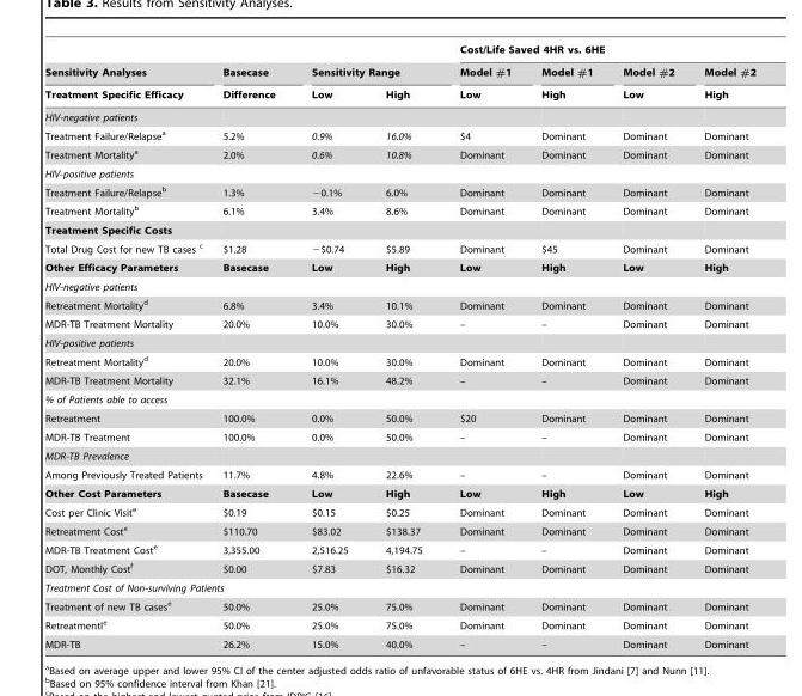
<table><thead><tr><td rowspan="3">Sensitivity Analyses Treatment Specific Efficacy</td><td rowspan="3">Basecase Difference</td><td></td><td></td><td colspan="4">Cost/Life Saved 4HR vs. 6HE</td></tr><tr><td colspan="2">Sensitivity Range</td><td rowspan="2">Model #1 Low</td><td rowspan="2">Model #1 High</td><td rowspan="2">Model #2 Low</td><td rowspan="2">Model #2 High</td></tr><tr><td>Low</td><td>High</td></tr></thead><tbody><tr><td colspan="8">HIV-negative patients</td></tr><tr><td>Treatment Failure/Relapse<sup>a</sup></td><td>5.2%</td><td>0.9%</td><td>16.0%</td><td>$4</td><td>Dominant</td><td>Dominant</td><td>Dominant</td></tr><tr><td>Treatment Mortality<sup>a</sup></td><td>2.0%</td><td>0.6%</td><td>10.8%</td><td>Dominant</td><td>Dominant</td><td>Dominant</td><td>Dominant</td></tr><tr><td colspan="8">HIV-positive patients</td></tr><tr><td>Treatment Failure/Relapse<sup>b</sup></td><td>1.3%</td><td>−0.1%</td><td>6.0%</td><td>Dominant</td><td>Dominant</td><td>Dominant</td><td>Dominant</td></tr><tr><td>Treatment Mortality<sup>b</sup></td><td>6.1%</td><td>3.4%</td><td>8.6%</td><td>Dominant</td><td>Dominant</td><td>Dominant</td><td>Dominant</td></tr><tr><td colspan="8">Treatment Specific Costs</td></tr><tr><td>Total Drug Cost for new TB cases c</td><td>$1.28</td><td>−$0.74</td><td>$5.89</td><td>Dominant</td><td>$45</td><td>Dominant</td><td>Dominant</td></tr><tr><td>Other Efficacy Parameters</td><td>Basecase</td><td>Low</td><td>High</td><td>Low</td><td>High</td><td>Low</td><td>High</td></tr><tr><td colspan="8">HIV-negative patients</td></tr><tr><td>Retreatment Mortality<sup>d</sup></td><td>6.8%</td><td>3.4%</td><td>10.1%</td><td>Dominant</td><td>Dominant</td><td>Dominant</td><td>Dominant</td></tr><tr><td>MDR-TB Treatment Mortality</td><td>20.0%</td><td>10.0%</td><td>30.0%</td><td>–</td><td>–</td><td>Dominant</td><td>Dominant</td></tr><tr><td colspan="8">HIV-positive patients</td></tr><tr><td>Retreatment Mortality<sup>d</sup></td><td>20.0%</td><td>10.0%</td><td>30.0%</td><td>Dominant</td><td>Dominant</td><td>Dominant</td><td>Dominant</td></tr><tr><td>MDR-TB Treatment Mortality</td><td>32.1%</td><td>16.1%</td><td>48.2%</td><td>–</td><td>–</td><td>Dominant</td><td>Dominant</td></tr><tr><td colspan="8">% of Patients able to access</td></tr><tr><td>Retreatment</td><td>100.0%</td><td>0.0%</td><td>50.0%</td><td>$20</td><td>Dominant</td><td>Dominant</td><td>Dominant</td></tr><tr><td>MDR-TB Treatment</td><td>100.0%</td><td>0.0%</td><td>50.0%</td><td>–</td><td>–</td><td>Dominant</td><td>Dominant</td></tr><tr><td colspan="8">MDR-TB Prevalence</td></tr><tr><td>Among Previously Treated Patients</td><td>11.7%</td><td>4.8%</td><td>22.6%</td><td>–</td><td>–</td><td>Dominant</td><td>Dominant</td></tr><tr><td>Other Cost Parameters</td><td>Basecase</td><td>Low</td><td>High</td><td>Low</td><td>High</td><td>Low</td><td>High</td></tr><tr><td>Cost per Clinic Visit<sup>e</sup></td><td>$0.19</td><td>$0.15</td><td>$0.25</td><td>Dominant</td><td>Dominant</td><td>Dominant</td><td>Dominant</td></tr><tr><td>Retreatment Cost<sup>e</sup></td><td>$110.70</td><td>$83.02</td><td>$138.37</td><td>Dominant</td><td>Dominant</td><td>Dominant</td><td>Dominant</td></tr><tr><td>MDR-TB Treatment Cost<sup>e</sup></td><td>3,355.00</td><td>2,516.25</td><td>4,194.75</td><td>–</td><td>–</td><td>Dominant</td><td>Dominant</td></tr><tr><td>DOT, Monthly Cost<sup>f</sup></td><td>$0.00</td><td>$7.83</td><td>$16.32</td><td>Dominant</td><td>Dominant</td><td>Dominant</td><td>Dominant</td></tr><tr><td colspan="8">Treatment Cost of Non-surviving Patients</td></tr><tr><td>Treatment of new TB cases<sup>e</sup></td><td>50.0%</td><td>25.0%</td><td>75.0%</td><td>Dominant</td><td>Dominant</td><td>Dominant</td><td>Dominant</td></tr><tr><td>RetreatmentI<sup>e</sup></td><td>50.0%</td><td>25.0%</td><td>75.0%</td><td>Dominant</td><td>Dominant</td><td>Dominant</td><td>Dominant</td></tr><tr><td>MDR-TB</td><td>26.2%</td><td>15.0%</td><td>40.0%</td><td>–</td><td>–</td><td>Dominant</td><td>Dominant</td></tr></tbody></table>